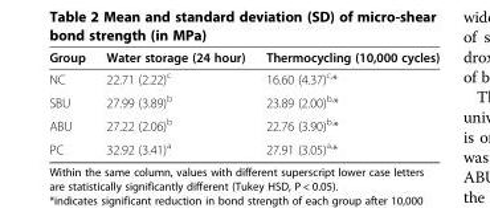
<table><thead><tr><td>Group</td><td>Water storage (24 hour)</td><td>Thermocycling (10,000 cycles)</td></tr></thead><tbody><tr><td>NC</td><td>22.71 (2.22)<sup>c</sup></td><td>16.60 (4.37)<sup>c,</sup>*</td></tr><tr><td>SBU</td><td>27.99 (3.89)<sup>b</sup></td><td>23.89 (2.00)<sup>b,</sup>*</td></tr><tr><td>ABU</td><td>27.22 (2.06)<sup>b</sup></td><td>22.76 (3.90)<sup>b,</sup>*</td></tr><tr><td>PC</td><td>32.92 (3.41)<sup>a</sup></td><td>27.91 (3.05)<sup>a,</sup>*</td></tr></tbody></table>